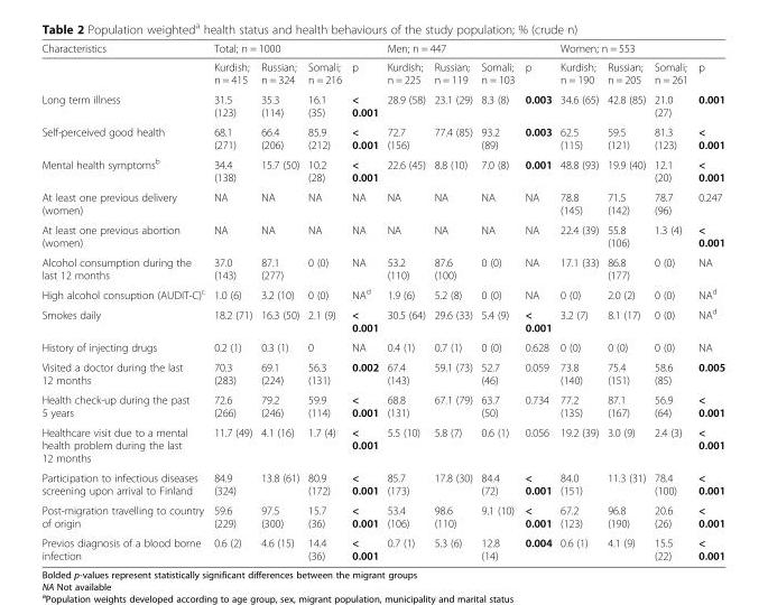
<table><thead><tr><td rowspan="2">Characteristics</td><td colspan="4">Total; n = 1000</td><td colspan="4">Men; n = 447</td><td colspan="4">Women; n = 553</td></tr><tr><td>Kurdish; n = 415</td><td>Russian; n = 324</td><td>Somali; n = 216</td><td>p</td><td>Kurdish; n = 225</td><td>Russian; n = 119</td><td>Somali; n = 103</td><td>p</td><td>Kurdish; n = 190</td><td>Russian; n = 205</td><td>Somali; n = 261</td><td>p</td></tr></thead><tbody><tr><td>Long term illness</td><td>31.5 (123)</td><td>35.3 (114)</td><td>16.1 (35)</td><td>&lt; 0.001</td><td>28.9 (58)</td><td>23.1 (29)</td><td>8.3 (8)</td><td>0.003</td><td>34.6 (65)</td><td>42.8 (85)</td><td>21.0 (27)</td><td>0.001</td></tr><tr><td>Self-perceived good health</td><td>68.1 (271)</td><td>66.4 (206)</td><td>85.9 (212)</td><td>&lt; 0.001</td><td>72.7 (156)</td><td>77.4 (85)</td><td>93.2 (89)</td><td>0.003</td><td>62.5 (115)</td><td>59.5 (121)</td><td>81.3 (123)</td><td>&lt; 0.001</td></tr><tr><td>Mental health symptoms<sup>b</sup></td><td>34.4 (138)</td><td>15.7 (50)</td><td>10.2 (28)</td><td>&lt; 0.001</td><td>22.6 (45)</td><td>8.8 (10)</td><td>7.0 (8)</td><td>0.001</td><td>48.8 (93)</td><td>19.9 (40)</td><td>12.1 (20)</td><td>&lt; 0.001</td></tr><tr><td>At least one previous delivery (women)</td><td>NA</td><td>NA</td><td>NA</td><td>NA</td><td>NA</td><td>NA</td><td>NA</td><td>NA</td><td>78.8 (145)</td><td>71.5 (142)</td><td>78.7 (96)</td><td>0.247</td></tr><tr><td>At least one previous abortion (women)</td><td>NA</td><td>NA</td><td>NA</td><td>NA</td><td>NA</td><td>NA</td><td>NA</td><td>NA</td><td>22.4 (39)</td><td>55.8 (106)</td><td>1.3 (4)</td><td>&lt; 0.001</td></tr><tr><td>Alcohol consumption during the last 12 months</td><td>37.0 (143)</td><td>87.1 (277)</td><td>0 (0)</td><td>NA</td><td>53.2 (110)</td><td>87.6 (100)</td><td>0 (0)</td><td>NA</td><td>17.1 (33)</td><td>86.8 (177)</td><td>0 (0)</td><td>NA</td></tr><tr><td>High alcohol consuption (AUDIT-C)<sup>c</sup></td><td>1.0 (6)</td><td>3.2 (10)</td><td>0 (0)</td><td>NA<sup>d</sup></td><td>1.9 (6)</td><td>5.2 (8)</td><td>0 (0)</td><td>NA</td><td>0 (0)</td><td>2.0 (2)</td><td>0 (0)</td><td>NA<sup>d</sup></td></tr><tr><td>Smokes daily</td><td>18.2 (71)</td><td>16.3 (50)</td><td>2.1 (9)</td><td>&lt; 0.001</td><td>30.5 (64)</td><td>29.6 (33)</td><td>5.4 (9)</td><td>&lt; 0.001</td><td>3.2 (7)</td><td>8.1 (17)</td><td>0 (0)</td><td>NA<sup>d</sup></td></tr><tr><td>History of injecting drugs</td><td>0.2 (1)</td><td>0.3 (1)</td><td>0</td><td>NA</td><td>0.4 (1)</td><td>0.7 (1)</td><td>0 (0)</td><td>0.628</td><td>0 (0)</td><td>0 (0)</td><td>0 (0)</td><td>NA</td></tr><tr><td>Visited a doctor during the last 12 months</td><td>70.3 (283)</td><td>69.1 (224)</td><td>56.3 (131)</td><td>0.002</td><td>67.4 (143)</td><td>59.1 (73)</td><td>52.7 (46)</td><td>0.059</td><td>73.8 (140)</td><td>75.4 (151)</td><td>58.6 (85)</td><td>0.005</td></tr><tr><td>Health check-up during the past 5 years</td><td>72.6 (266)</td><td>79.2 (246)</td><td>59.9 (114)</td><td>&lt; 0.001</td><td>68.8 (131)</td><td>67.1 (79)</td><td>63.7 (50)</td><td>0.734</td><td>77.2 (135)</td><td>87.1 (167)</td><td>56.9 (64)</td><td>&lt; 0.001</td></tr><tr><td>Healthcare visit due to a mental health problem during the last 12 months</td><td>11.7 (49)</td><td>4.1 (16)</td><td>1.7 (4)</td><td>&lt; 0.001</td><td>5.5 (10)</td><td>5.8 (7)</td><td>0.6 (1)</td><td>0.056</td><td>19.2 (39)</td><td>3.0 (9)</td><td>2.4 (3)</td><td>&lt; 0.001</td></tr><tr><td>Participation to infectious diseases screening upon arrival to Finland</td><td>84.9 (324)</td><td>13.8 (61)</td><td>80.9 (172)</td><td>&lt; 0.001</td><td>85.7 (173)</td><td>17.8 (30)</td><td>84.4 (72)</td><td>&lt; 0.001</td><td>84.0 (151)</td><td>11.3 (31)</td><td>78.4 (100)</td><td>&lt; 0.001</td></tr><tr><td>Post-migration travelling to country of origin</td><td>59.6 (229)</td><td>97.5 (300)</td><td>15.7 (36)</td><td>&lt; 0.001</td><td>53.4 (106)</td><td>98.6 (110)</td><td>9.1 (10)</td><td>&lt; 0.001</td><td>67.2 (123)</td><td>96.8 (190)</td><td>20.6 (26)</td><td>&lt; 0.001</td></tr><tr><td>Previos diagnosis of a blood borne infection</td><td>0.6 (2)</td><td>4.6 (15)</td><td>14.4 (36)</td><td>&lt; 0.001</td><td>0.7 (1)</td><td>5.3 (6)</td><td>12.8 (14)</td><td>0.004</td><td>0.6 (1)</td><td>4.1 (9)</td><td>15.5 (22)</td><td>&lt; 0.001</td></tr></tbody></table>